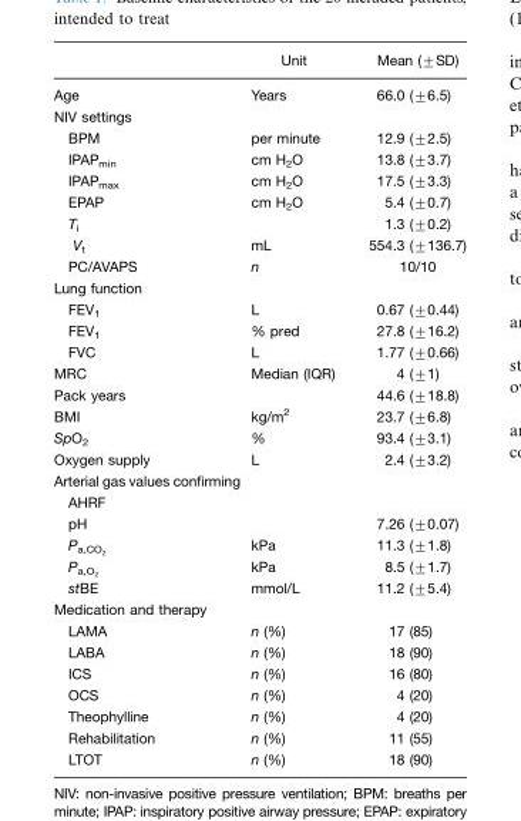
<table><thead><tr><td></td><td>Unit</td><td>Mean (±SD)</td></tr></thead><tbody><tr><td>Age</td><td>Years</td><td>66.0 (±6.5)</td></tr><tr><td colspan="3">NIV settings</td></tr><tr><td>BPM</td><td>per minute</td><td>12.9 (±2.5)</td></tr><tr><td>IPAP<sub>min</sub></td><td>cm H<sub>2</sub>O</td><td>13.8 (±3.7)</td></tr><tr><td>IPAP<sub>max</sub></td><td>cm H<sub>2</sub>O</td><td>17.5 (±3.3)</td></tr><tr><td>EPAP</td><td>cm H<sub>2</sub>O</td><td>5.4 (±0.7)</td></tr><tr><td>T<sub>i</sub></td><td></td><td>1.3 (±0.2)</td></tr><tr><td>V<sub>t</sub></td><td>mL</td><td>554.3 (±136.7)</td></tr><tr><td>PC/AVAPS</td><td>n</td><td>10/10</td></tr><tr><td colspan="3">Lung function</td></tr><tr><td>FEV<sub>1</sub></td><td>L</td><td>0.67 (±0.44)</td></tr><tr><td>FEV<sub>1</sub></td><td>% pred</td><td>27.8 (±16.2)</td></tr><tr><td>FVC</td><td>L</td><td>1.77 (±0.66)</td></tr><tr><td>MRC</td><td>Median (IQR)</td><td>4 (±1)</td></tr><tr><td>Pack years</td><td></td><td>44.6 (±18.8)</td></tr><tr><td>BMI</td><td>kg/m<sup>2</sup></td><td>23.7 (±6.8)</td></tr><tr><td>SpO<sub>2</sub></td><td>%</td><td>93.4 (±3.1)</td></tr><tr><td>Oxygen supply</td><td>L</td><td>2.4 (±3.2)</td></tr><tr><td colspan="3">Arterial gas values confirming AHRF</td></tr><tr><td>pH</td><td></td><td>7.26 (±0.07)</td></tr><tr><td>Pa,CO2</td><td>kPa</td><td>11.3 (±1.8)</td></tr><tr><td>Pa,O2</td><td>kPa</td><td>8.5 (±1.7)</td></tr><tr><td>stBE</td><td>mmol/L</td><td>11.2 (±5.4)</td></tr><tr><td colspan="3">Medication and therapy</td></tr><tr><td>LAMA</td><td>n (%)</td><td>17 (85)</td></tr><tr><td>LABA</td><td>n (%)</td><td>18 (90)</td></tr><tr><td>ICS</td><td>n (%)</td><td>16 (80)</td></tr><tr><td>OCS</td><td>n (%)</td><td>4 (20)</td></tr><tr><td>Theophylline</td><td>n (%)</td><td>4 (20)</td></tr><tr><td>Rehabilitation</td><td>n (%)</td><td>11 (55)</td></tr><tr><td>LTOT</td><td>n (%)</td><td>18 (90)</td></tr></tbody></table>